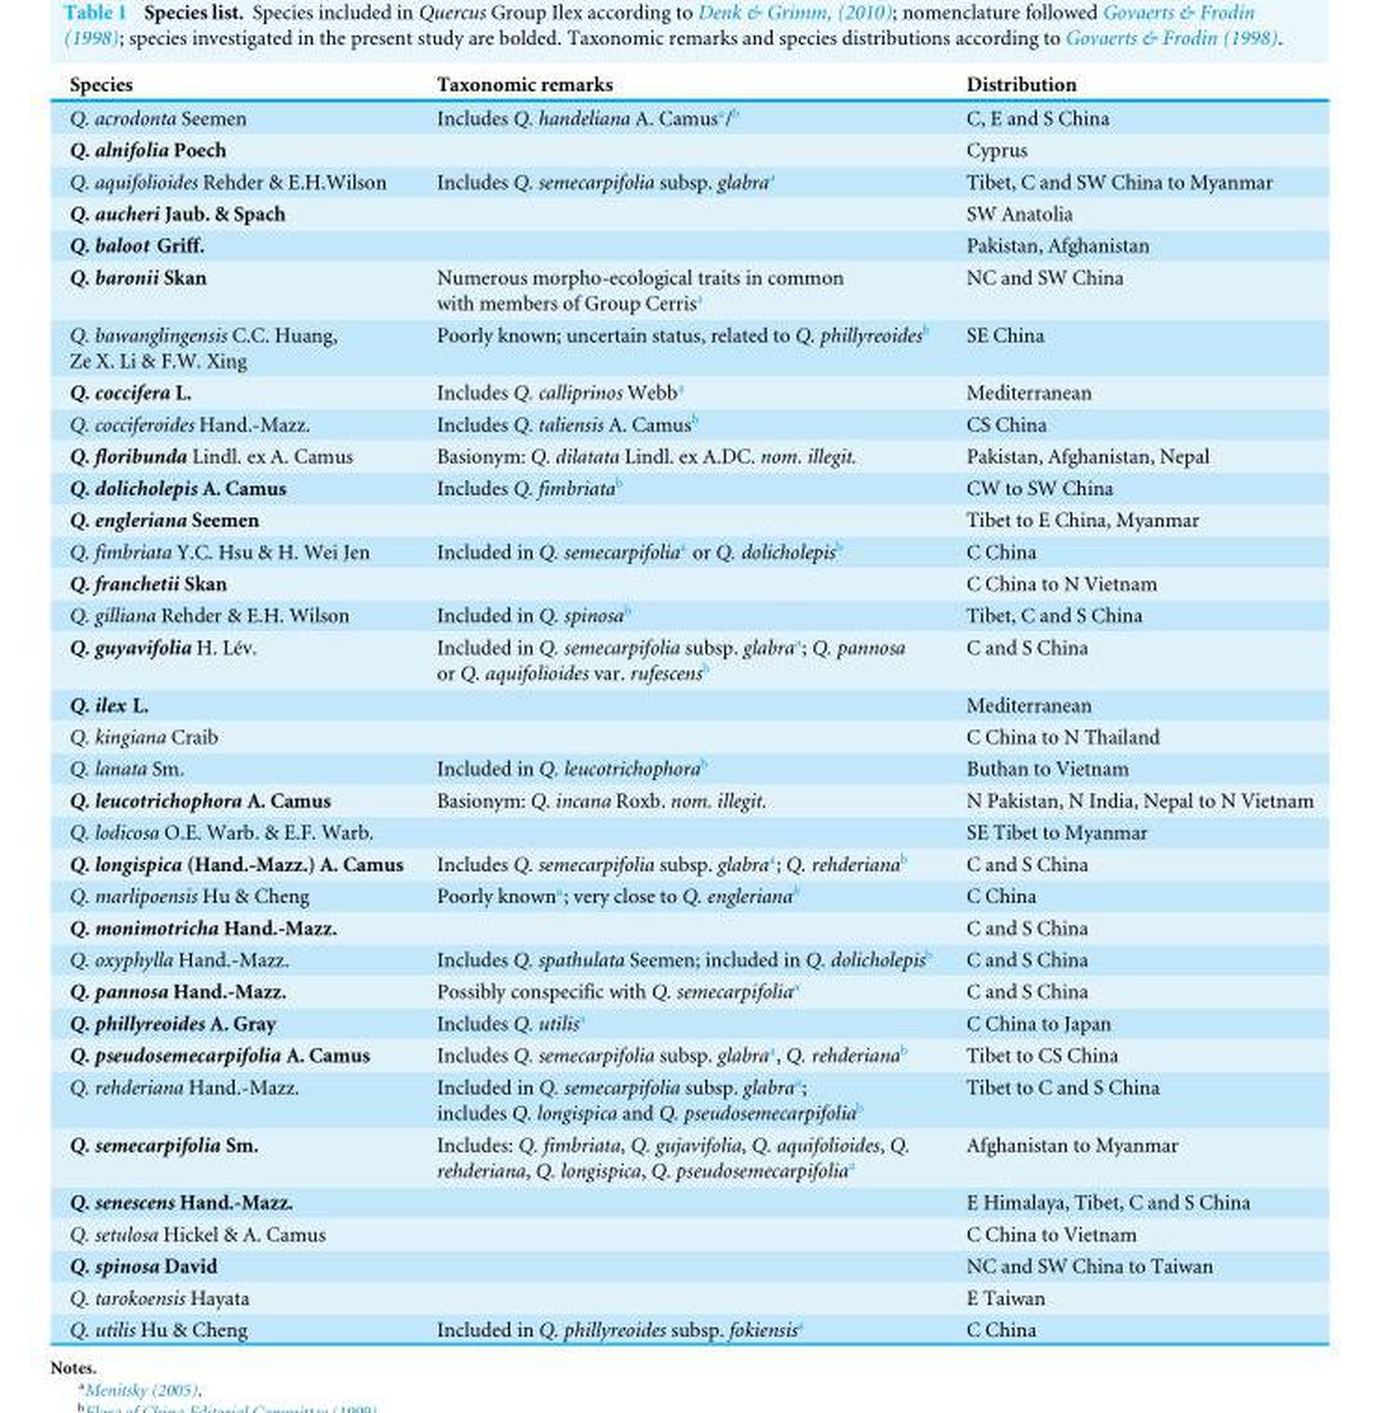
<table><thead><tr><td>Species</td><td>Taxonomic remarks</td><td>Distribution</td></tr></thead><tbody><tr><td>Q. acrodonta Seemen</td><td>Includes Q. handeliana A. Camus<sup>a</sup>/<sup>b</sup></td><td>C, E and S China</td></tr><tr><td>Q. alnifolia Poech</td><td></td><td>Cyprus</td></tr><tr><td>Q. aquifolioides Rehder &amp; E.H.Wilson</td><td>Includes Q. semecarpifolia subsp. glabra<sup>a</sup></td><td>Tibet, C and SW China to Myanmar</td></tr><tr><td>Q. aucheri Jaub. &amp; Spach</td><td></td><td>SW Anatolia</td></tr><tr><td>Q. baloot Griff.</td><td></td><td>Pakistan, Afghanistan</td></tr><tr><td>Q. baronii Skan</td><td>Numerous morpho-ecological traits in common with members of Group Cerris<sup>a</sup></td><td>NC and SW China</td></tr><tr><td>Q. bawanglingensis C.C. Huang, Ze X. Li &amp; F.W. Xing</td><td>Poorly known; uncertain status, related to Q. phillyreoides<sup>b</sup></td><td>SE China</td></tr><tr><td>Q. coccifera L.</td><td>Includes Q. calliprinos Webb<sup>a</sup></td><td>Mediterranean</td></tr><tr><td>Q. cocciferoides Hand.-Mazz.</td><td>Includes Q. taliensis A. Camus<sup>b</sup></td><td>CS China</td></tr><tr><td>Q. floribunda Lindl. ex A. Camus</td><td>Basionym: Q. dilatata Lindl. ex A.DC. nom. illegit.</td><td>Pakistan, Afghanistan, Nepal</td></tr><tr><td>Q. dolicholepis A. Camus</td><td>Includes Q. fimbriata<sup>b</sup></td><td>CW to SW China</td></tr><tr><td>Q. engleriana Seemen</td><td></td><td>Tibet to E China, Myanmar</td></tr><tr><td>Q. fimbriata Y.C. Hsu &amp; H. Wei Jen</td><td>Included in Q. semecarpifolia<sup>a</sup> or Q. dolicholepis<sup>b</sup></td><td>C China</td></tr><tr><td>Q. franchetii Skan</td><td></td><td>C China to N Vietnam</td></tr><tr><td>Q. gilliana Rehder &amp; E.H. Wilson</td><td>Included in Q. spinosa<sup>b</sup></td><td>Tibet, C and S China</td></tr><tr><td>Q. guyavifolia H. Lév.</td><td>Included in Q. semecarpifolia subsp. glabra<sup>a</sup>; Q. pannosa or Q. aquifolioides var. rufescens<sup>b</sup></td><td>C and S China</td></tr><tr><td>Q. ilex L.</td><td></td><td>Mediterranean</td></tr><tr><td>Q. kingiana Craib</td><td></td><td>C China to N Thailand</td></tr><tr><td>Q. lanata Sm.</td><td>Included in Q. leucotrichophora<sup>b</sup></td><td>Buthan to Vietnam</td></tr><tr><td>Q. leucotrichophora A. Camus</td><td>Basionym: Q. incana Roxb. nom. illegit.</td><td>N Pakistan, N India, Nepal to N Vietnam</td></tr><tr><td>Q. lodicosa O.E. Warb. &amp; E.F. Warb.</td><td></td><td>SE Tibet to Myanmar</td></tr><tr><td>Q. longispica (Hand.-Mazz.) A. Camus</td><td>Includes Q. semecarpifolia subsp. glabra<sup>a</sup>; Q. rehderiana<sup>b</sup></td><td>C and S China</td></tr><tr><td>Q. marlipoensis Hu &amp; Cheng</td><td>Poorly known<sup>a</sup>; very close to Q. engleriana<sup>b</sup></td><td>C China</td></tr><tr><td>Q. monimotricha Hand.-Mazz.</td><td></td><td>C and S China</td></tr><tr><td>Q. oxyphylla Hand.-Mazz.</td><td>Includes Q. spathulata Seemen; included in Q. dolicholepis<sup>b</sup></td><td>C and S China</td></tr><tr><td>Q. pannosa Hand.-Mazz.</td><td>Possibly conspecific with Q. semecarpifolia<sup>a</sup></td><td>C and S China</td></tr><tr><td>Q. phillyreoides A. Gray</td><td>Includes Q. utilis<sup>a</sup></td><td>C China to Japan</td></tr><tr><td>Q. pseudosemecarpifolia A. Camus</td><td>Includes Q. semecarpifolia subsp. glabra<sup>a</sup>, Q. rehderiana<sup>b</sup></td><td>Tibet to CS China</td></tr><tr><td>Q. rehderiana Hand.-Mazz.</td><td>Included in Q. semecarpifolia subsp. glabra<sup>a</sup>; includes Q. longispica and Q. pseudosemecarpifolia<sup>b</sup></td><td>Tibet to C and S China</td></tr><tr><td>Q. semecarpifolia Sm.</td><td>Includes: Q. fimbriata, Q. gujavifolia, Q. aquifolioides, Q. rehderiana, Q. longispica, Q. pseudosemecarpifolia<sup>a</sup></td><td>Afghanistan to Myanmar</td></tr><tr><td>Q. senescens Hand.-Mazz.</td><td></td><td>E Himalaya, Tibet, C and S China</td></tr><tr><td>Q. setulosa Hickel &amp; A. Camus</td><td></td><td>C China to Vietnam</td></tr><tr><td>Q. spinosa David</td><td></td><td>NC and SW China to Taiwan</td></tr><tr><td>Q. tarokoensis Hayata</td><td></td><td>E Taiwan</td></tr><tr><td>Q. utilis Hu &amp; Cheng</td><td>Included in Q. phillyreoides subsp. fokiensis<sup>a</sup></td><td>C China</td></tr></tbody></table>